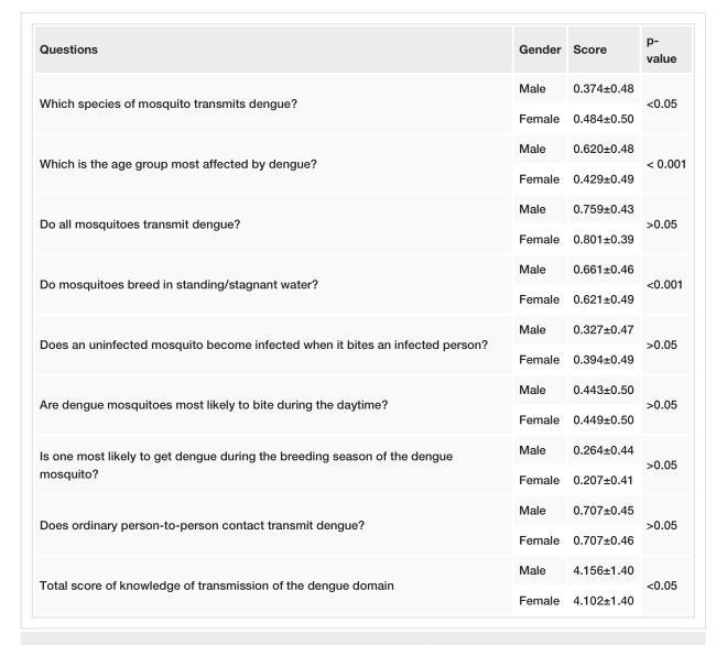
<table><tbody><tr><td>Questions</td><td>Gender</td><td>Score</td><td>p- value</td></tr><tr><td rowspan="2">Which species of mosquito transmits dengue?</td><td>Male</td><td>0.374±0.48</td><td rowspan="2">&lt;0.05</td></tr><tr><td>Female</td><td>0.484±0.50</td></tr><tr><td rowspan="2">Which is the age group most affected by dengue?</td><td>Male</td><td>0.620±0.48</td><td rowspan="2">&lt; 0.001</td></tr><tr><td>Female</td><td>0.429±0.49</td></tr><tr><td rowspan="2">Do all mosquitoes transmit dengue?</td><td>Male</td><td>0.759±0.43</td><td rowspan="2">&gt;0.05</td></tr><tr><td>Female</td><td>0.801±0.39</td></tr><tr><td rowspan="2">Do mosquitoes breed in standing/stagnant water?</td><td>Male</td><td>0.661±0.46</td><td rowspan="2">&lt;0.001</td></tr><tr><td>Female</td><td>0.621±0.49</td></tr><tr><td rowspan="2">Does an uninfected mosquito become infected when it bites an infected person?</td><td>Male</td><td>0.327±0.47</td><td rowspan="2">&gt;0.05</td></tr><tr><td>Female</td><td>0.394±0.49</td></tr><tr><td rowspan="2">Are dengue mosquitoes most likely to bite during the daytime?</td><td>Male</td><td>0.443±0.50</td><td rowspan="2">&gt;0.05</td></tr><tr><td>Female</td><td>0.449±0.50</td></tr><tr><td rowspan="2">Is one most likely to get dengue during the breeding season of the dengue mosquito?</td><td>Male</td><td>0.264±0.44</td><td rowspan="2">&gt;0.05</td></tr><tr><td>Female</td><td>0.207±0.41</td></tr><tr><td rowspan="2">Does ordinary person-to-person contact transmit dengue?</td><td>Male</td><td>0.707±0.45</td><td rowspan="2">&gt;0.05</td></tr><tr><td>Female</td><td>0.707±0.46</td></tr><tr><td rowspan="2">Total score of knowledge of transmission of the dengue domain</td><td>Male</td><td>4.156±1.40</td><td rowspan="2">&lt;0.05</td></tr><tr><td>Female</td><td>4.102±1.40</td></tr></tbody></table>